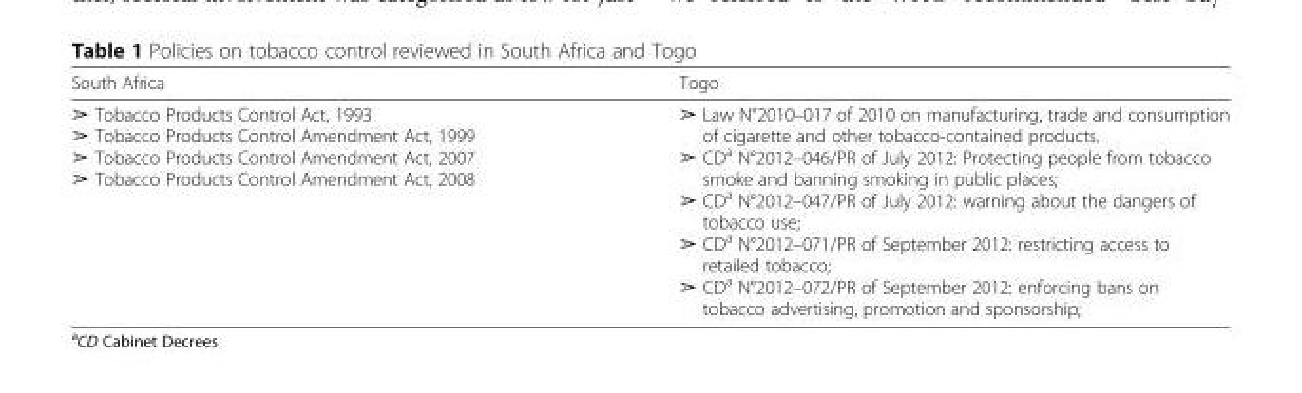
<table><thead><tr><td>South Africa</td><td>Togo</td></tr></thead><tbody><tr><td>➢ Tobacco Products Control Act, 1993 ➢ Tobacco Products Control Amendment Act, 1999 ➢ Tobacco Products Control Amendment Act, 2007 ➢ Tobacco Products Control Amendment Act, 2008</td><td>➢ Law N°2010–017 of 2010 on manufacturing, trade and consumption of cigarette and other tobacco-contained products. ➢ CD<sup>a</sup> N°2012–046/PR of July 2012: Protecting people from tobacco smoke and banning smoking in public places; ➢ CD<sup>a</sup> N°2012–047/PR of July 2012: warning about the dangers of tobacco use; ➢ CD<sup>a</sup> N°2012–071/PR of September 2012: restricting access to retailed tobacco; ➢ CD<sup>a</sup> N°2012–072/PR of September 2012: enforcing bans on tobacco advertising, promotion and sponsorship;</td></tr></tbody></table>